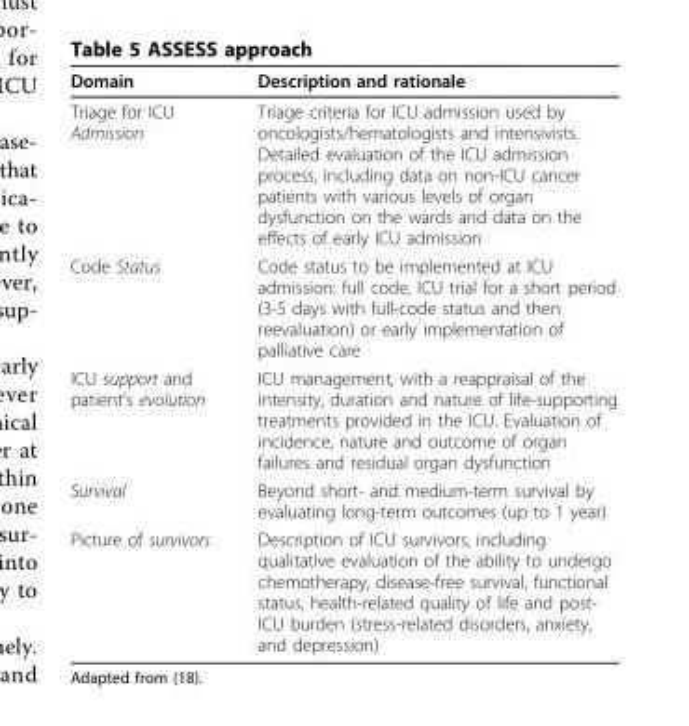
<table><thead><tr><td>Domain</td><td>Description and rationale</td></tr></thead><tbody><tr><td>Triage for ICU Admission</td><td>Triage criteria for ICU admission used by oncologists/hematologists and intensivists. Detailed evaluation of the ICU admission process, including data on non-ICU cancer patients with various levels of organ dysfunction on the wards and data on the effects of early ICU admission</td></tr><tr><td>Code Status</td><td>Code status to be implemented at ICU admission: full code, ICU trial for a short period (3-5 days with full-code status and then reevaluation) or early implementation of palliative care</td></tr><tr><td>ICU support and patient’s evolution</td><td>ICU management, with a reappraisal of the intensity, duration and nature of life-supporting treatments provided in the ICU. Evaluation of incidence, nature and outcome of organ failures and residual organ dysfunction</td></tr><tr><td>Survival</td><td>Beyond short- and medium-term survival by evaluating long-term outcomes (up to 1 year)</td></tr><tr><td>Picture of survivors</td><td>Description of ICU survivors, including qualitative evaluation of the ability to undergo chemotherapy, disease-free survival, functional status, health-related quality of life and post- ICU burden (stress-related disorders, anxiety, and depression)</td></tr></tbody></table>